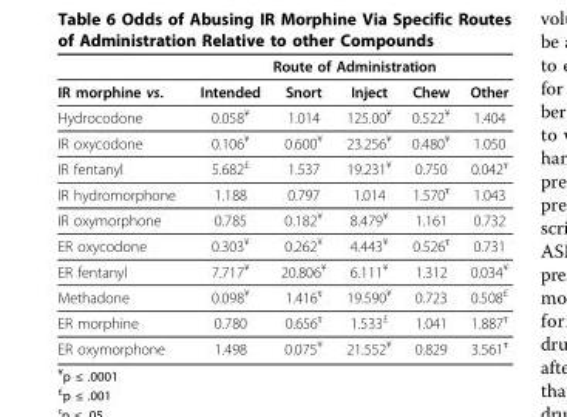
<table><thead><tr><td rowspan="2">IR morphine vs.</td><td colspan="5">Route of Administration</td></tr><tr><td>Intended</td><td>Snort</td><td>Inject</td><td>Chew</td><td>Other</td></tr></thead><tbody><tr><td>Hydrocodone</td><td>0.058¥</td><td>1.014</td><td>125.00¥</td><td>0.522¥</td><td>1.404</td></tr><tr><td>IR oxycodone</td><td>0.106¥</td><td>0.600¥</td><td>23.256¥</td><td>0.480¥</td><td>1.050</td></tr><tr><td>IR fentanyl</td><td>5.682£</td><td>1.537</td><td>19.231¥</td><td>0.750</td><td>0.042τ</td></tr><tr><td>IR hydromorphone</td><td>1.188</td><td>0.797</td><td>1.014</td><td>1.570τ</td><td>1.043</td></tr><tr><td>IR oxymorphone</td><td>0.785</td><td>0.182¥</td><td>8.479¥</td><td>1.161</td><td>0.732</td></tr><tr><td>ER oxycodone</td><td>0.303¥</td><td>0.262¥</td><td>4.443¥</td><td>0.526τ</td><td>0.731</td></tr><tr><td>ER fentanyl</td><td>7.717¥</td><td>20.806¥</td><td>6.111¥</td><td>1.312</td><td>0.034¥</td></tr><tr><td>Methadone</td><td>0.098¥</td><td>1.416τ</td><td>19.590¥</td><td>0.723</td><td>0.508£</td></tr><tr><td>ER morphine</td><td>0.780</td><td>0.656τ</td><td>1.533£</td><td>1.041</td><td>1.887τ</td></tr><tr><td>ER oxymorphone</td><td>1.498</td><td>0.075¥</td><td>21.552¥</td><td>0.829</td><td>3.561τ</td></tr></tbody></table>